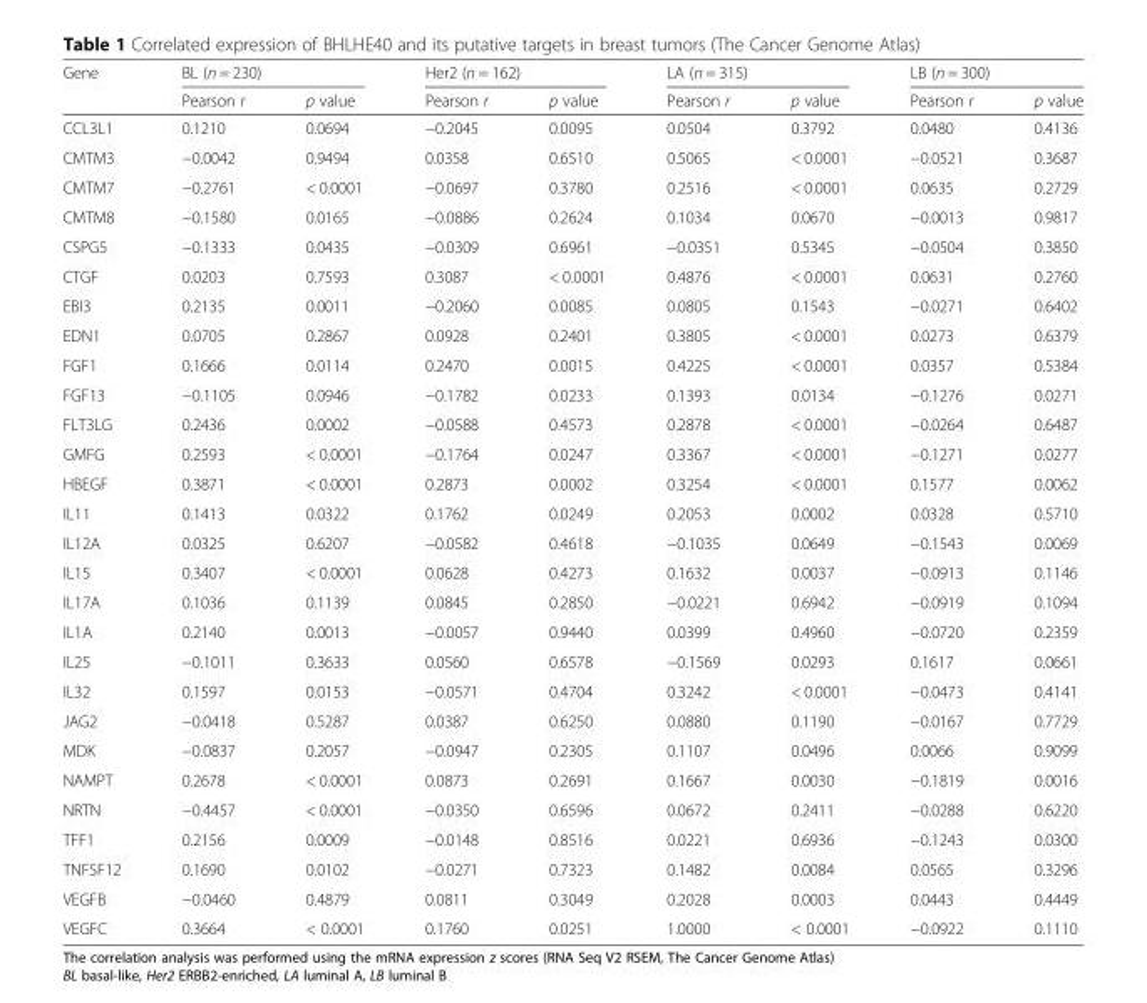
<table><thead><tr><td rowspan="2">Gene</td><td colspan="2">BL (n = 230)</td><td colspan="2">Her2 (n = 162)</td><td colspan="2">LA (n = 315)</td><td colspan="2">LB (n = 300)</td></tr><tr><td>Pearson r</td><td>p value</td><td>Pearson r</td><td>p value</td><td>Pearson r</td><td>p value</td><td>Pearson r</td><td>p value</td></tr></thead><tbody><tr><td>CCL3L1</td><td>0.1210</td><td>0.0694</td><td>−0.2045</td><td>0.0095</td><td>0.0504</td><td>0.3792</td><td>0.0480</td><td>0.4136</td></tr><tr><td>CMTM3</td><td>−0.0042</td><td>0.9494</td><td>0.0358</td><td>0.6510</td><td>0.5065</td><td>&lt; 0.0001</td><td>−0.0521</td><td>0.3687</td></tr><tr><td>CMTM7</td><td>−0.2761</td><td>&lt; 0.0001</td><td>−0.0697</td><td>0.3780</td><td>0.2516</td><td>&lt; 0.0001</td><td>0.0635</td><td>0.2729</td></tr><tr><td>CMTM8</td><td>−0.1580</td><td>0.0165</td><td>−0.0886</td><td>0.2624</td><td>0.1034</td><td>0.0670</td><td>−0.0013</td><td>0.9817</td></tr><tr><td>CSPG5</td><td>−0.1333</td><td>0.0435</td><td>−0.0309</td><td>0.6961</td><td>−0.0351</td><td>0.5345</td><td>−0.0504</td><td>0.3850</td></tr><tr><td>CTGF</td><td>0.0203</td><td>0.7593</td><td>0.3087</td><td>&lt; 0.0001</td><td>0.4876</td><td>&lt; 0.0001</td><td>0.0631</td><td>0.2760</td></tr><tr><td>EBI3</td><td>0.2135</td><td>0.0011</td><td>−0.2060</td><td>0.0085</td><td>0.0805</td><td>0.1543</td><td>−0.0271</td><td>0.6402</td></tr><tr><td>EDN1</td><td>0.0705</td><td>0.2867</td><td>0.0928</td><td>0.2401</td><td>0.3805</td><td>&lt; 0.0001</td><td>0.0273</td><td>0.6379</td></tr><tr><td>FGF1</td><td>0.1666</td><td>0.0114</td><td>0.2470</td><td>0.0015</td><td>0.4225</td><td>&lt; 0.0001</td><td>0.0357</td><td>0.5384</td></tr><tr><td>FGF13</td><td>−0.1105</td><td>0.0946</td><td>−0.1782</td><td>0.0233</td><td>0.1393</td><td>0.0134</td><td>−0.1276</td><td>0.0271</td></tr><tr><td>FLT3LG</td><td>0.2436</td><td>0.0002</td><td>−0.0588</td><td>0.4573</td><td>0.2878</td><td>&lt; 0.0001</td><td>−0.0264</td><td>0.6487</td></tr><tr><td>GMFG</td><td>0.2593</td><td>&lt; 0.0001</td><td>−0.1764</td><td>0.0247</td><td>0.3367</td><td>&lt; 0.0001</td><td>−0.1271</td><td>0.0277</td></tr><tr><td>HBEGF</td><td>0.3871</td><td>&lt; 0.0001</td><td>0.2873</td><td>0.0002</td><td>0.3254</td><td>&lt; 0.0001</td><td>0.1577</td><td>0.0062</td></tr><tr><td>IL11</td><td>0.1413</td><td>0.0322</td><td>0.1762</td><td>0.0249</td><td>0.2053</td><td>0.0002</td><td>0.0328</td><td>0.5710</td></tr><tr><td>IL12A</td><td>0.0325</td><td>0.6207</td><td>−0.0582</td><td>0.4618</td><td>−0.1035</td><td>0.0649</td><td>−0.1543</td><td>0.0069</td></tr><tr><td>IL15</td><td>0.3407</td><td>&lt; 0.0001</td><td>0.0628</td><td>0.4273</td><td>0.1632</td><td>0.0037</td><td>−0.0913</td><td>0.1146</td></tr><tr><td>IL17A</td><td>0.1036</td><td>0.1139</td><td>0.0845</td><td>0.2850</td><td>−0.0221</td><td>0.6942</td><td>−0.0919</td><td>0.1094</td></tr><tr><td>IL1A</td><td>0.2140</td><td>0.0013</td><td>−0.0057</td><td>0.9440</td><td>0.0399</td><td>0.4960</td><td>−0.0720</td><td>0.2359</td></tr><tr><td>IL25</td><td>−0.1011</td><td>0.3633</td><td>0.0560</td><td>0.6578</td><td>−0.1569</td><td>0.0293</td><td>0.1617</td><td>0.0661</td></tr><tr><td>IL32</td><td>0.1597</td><td>0.0153</td><td>−0.0571</td><td>0.4704</td><td>0.3242</td><td>&lt; 0.0001</td><td>−0.0473</td><td>0.4141</td></tr><tr><td>JAG2</td><td>−0.0418</td><td>0.5287</td><td>0.0387</td><td>0.6250</td><td>0.0880</td><td>0.1190</td><td>−0.0167</td><td>0.7729</td></tr><tr><td>MDK</td><td>−0.0837</td><td>0.2057</td><td>−0.0947</td><td>0.2305</td><td>0.1107</td><td>0.0496</td><td>0.0066</td><td>0.9099</td></tr><tr><td>NAMPT</td><td>0.2678</td><td>&lt; 0.0001</td><td>0.0873</td><td>0.2691</td><td>0.1667</td><td>0.0030</td><td>−0.1819</td><td>0.0016</td></tr><tr><td>NRTN</td><td>−0.4457</td><td>&lt; 0.0001</td><td>−0.0350</td><td>0.6596</td><td>0.0672</td><td>0.2411</td><td>−0.0288</td><td>0.6220</td></tr><tr><td>TFF1</td><td>0.2156</td><td>0.0009</td><td>−0.0148</td><td>0.8516</td><td>0.0221</td><td>0.6936</td><td>−0.1243</td><td>0.0300</td></tr><tr><td>TNFSF12</td><td>0.1690</td><td>0.0102</td><td>−0.0271</td><td>0.7323</td><td>0.1482</td><td>0.0084</td><td>0.0565</td><td>0.3296</td></tr><tr><td>VEGFB</td><td>−0.0460</td><td>0.4879</td><td>0.0811</td><td>0.3049</td><td>0.2028</td><td>0.0003</td><td>0.0443</td><td>0.4449</td></tr><tr><td>VEGFC</td><td>0.3664</td><td>&lt; 0.0001</td><td>0.1760</td><td>0.0251</td><td>1.0000</td><td>&lt; 0.0001</td><td>−0.0922</td><td>0.1110</td></tr></tbody></table>